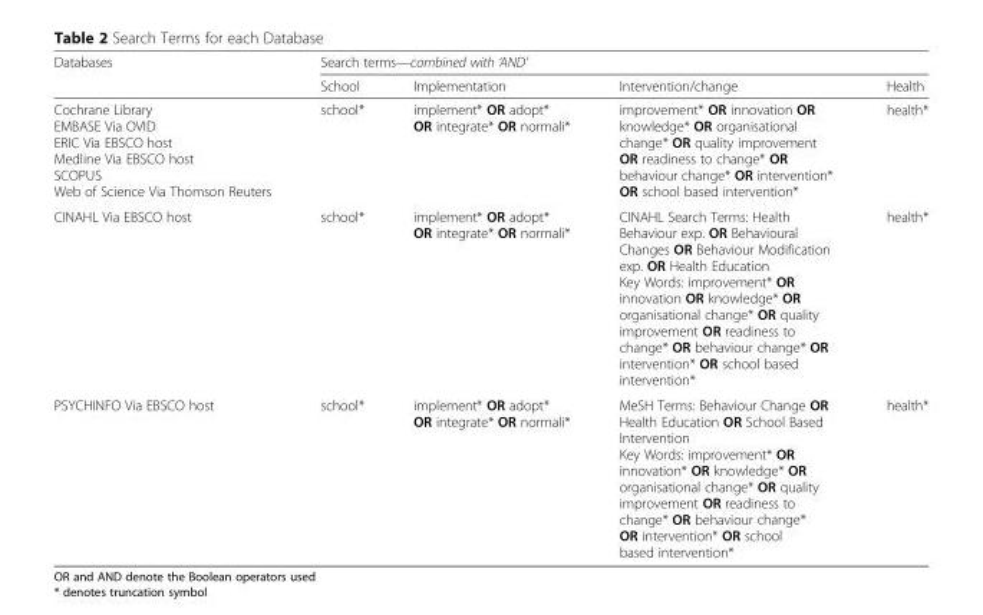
<table><thead><tr><td rowspan="2">Databases</td><td colspan="4">Search terms—combined with ‘AND’</td></tr><tr><td>School</td><td>Implementation</td><td>Intervention/change</td><td>Health</td></tr></thead><tbody><tr><td>Cochrane Library EMBASE Via OVID ERIC Via EBSCO host Medline Via EBSCO host SCOPUS Web of Science Via Thomson Reuters</td><td>school*</td><td>implement* OR adopt* OR integrate* OR normali*</td><td>improvement* OR innovation OR knowledge* OR organisational change* OR quality improvement OR readiness to change* OR behaviour change* OR intervention* OR school based intervention*</td><td>health*</td></tr><tr><td>CINAHL Via EBSCO host</td><td>school*</td><td>implement* OR adopt* OR integrate* OR normali*</td><td>CINAHL Search Terms: Health Behaviour exp. OR Behavioural Changes OR Behaviour Modification exp. OR Health Education Key Words: improvement* OR innovation OR knowledge* OR organisational change* OR quality improvement OR readiness to change* OR behaviour change* OR intervention* OR school based intervention*</td><td>health*</td></tr><tr><td>PSYCHINFO Via EBSCO host</td><td>school*</td><td>implement* OR adopt* OR integrate* OR normali*</td><td>MeSH Terms: Behaviour Change OR Health Education OR School Based Intervention Key Words: improvement* OR innovation* OR knowledge* OR organisational change* OR quality improvement OR readiness to change* OR behaviour change* OR intervention* OR school based intervention*</td><td>health*</td></tr></tbody></table>